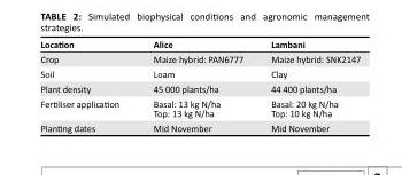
<table><thead><tr><td>Location</td><td>Alice</td><td>Lambani</td></tr></thead><tbody><tr><td>Crop</td><td>Maize hybrid: PAN6777</td><td>Maize hybrid: SNK2147</td></tr><tr><td>Soil</td><td>Loam</td><td>Clay</td></tr><tr><td>Plant density</td><td>45 000 plants/ha</td><td>44 400 plants/ha</td></tr><tr><td>Fertiliser application</td><td>Basal: 13 kg N/ha Top: 13 kg N/ha</td><td>Basal: 20 kg N/ha Top: 10 kg N/ha</td></tr><tr><td>Planting dates</td><td>Mid November</td><td>Mid November</td></tr></tbody></table>